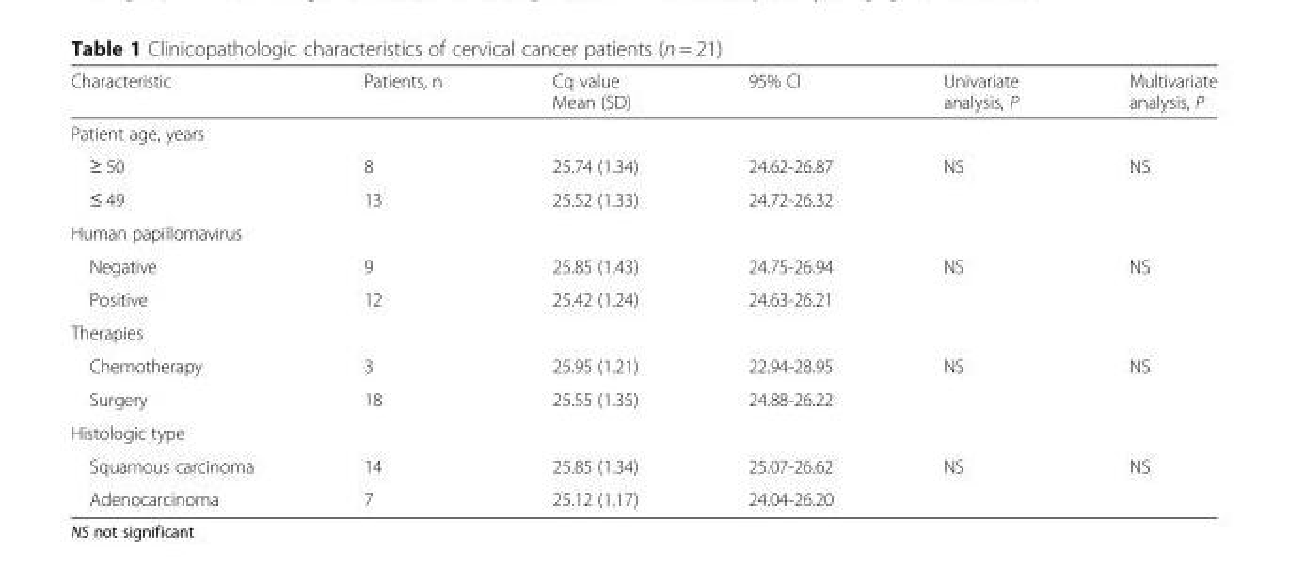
<table><thead><tr><td>Characteristic</td><td>Patients, n</td><td>Cq value Mean (SD)</td><td>95% CI</td><td>Univariate analysis, P</td><td>Multivariate analysis, P</td></tr></thead><tbody><tr><td colspan="6">Patient age, years</td></tr><tr><td>≥ 50</td><td>8</td><td>25.74 (1.34)</td><td>24.62-26.87</td><td>NS</td><td>NS</td></tr><tr><td>≤ 49</td><td>13</td><td>25.52 (1.33)</td><td>24.72-26.32</td><td></td><td></td></tr><tr><td colspan="6">Human papillomavirus</td></tr><tr><td>Negative</td><td>9</td><td>25.85 (1.43)</td><td>24.75-26.94</td><td>NS</td><td>NS</td></tr><tr><td>Positive</td><td>12</td><td>25.42 (1.24)</td><td>24.63-26.21</td><td></td><td></td></tr><tr><td colspan="6">Therapies</td></tr><tr><td>Chemotherapy</td><td>3</td><td>25.95 (1.21)</td><td>22.94-28.95</td><td>NS</td><td>NS</td></tr><tr><td>Surgery</td><td>18</td><td>25.55 (1.35)</td><td>24.88-26.22</td><td></td><td></td></tr><tr><td colspan="6">Histologic type</td></tr><tr><td>Squamous carcinoma</td><td>14</td><td>25.85 (1.34)</td><td>25.07-26.62</td><td>NS</td><td>NS</td></tr><tr><td>Adenocarcinoma</td><td>7</td><td>25.12 (1.17)</td><td>24.04-26.20</td><td></td><td></td></tr></tbody></table>